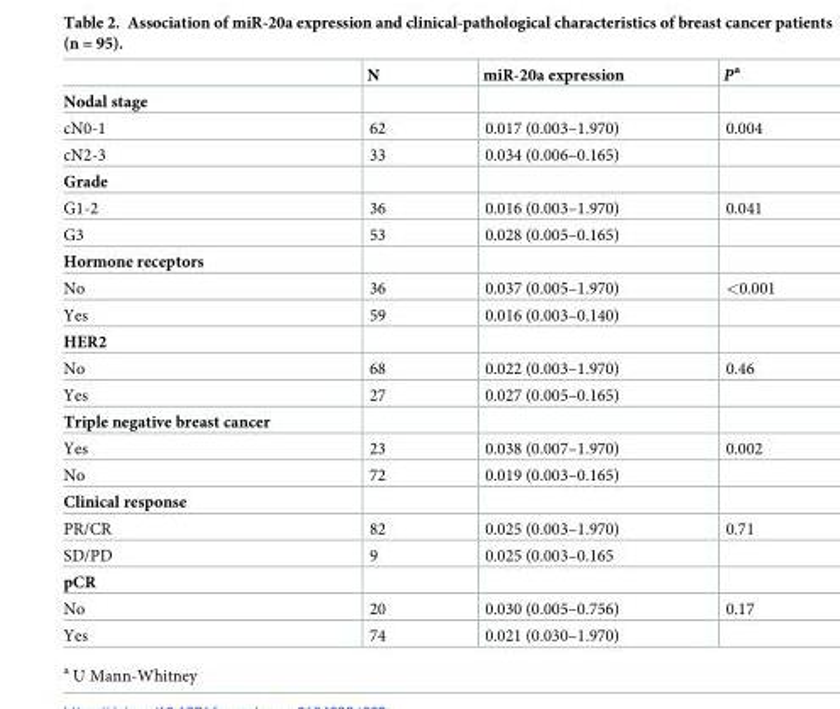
<table><thead><tr><td></td><td>N</td><td>miR-20a expression</td><td>P<sup>a</sup></td></tr></thead><tbody><tr><td colspan="4">Nodal stage</td></tr><tr><td>cN0-1</td><td>62</td><td>0.017 (0.003–1.970)</td><td>0.004</td></tr><tr><td>cN2-3</td><td>33</td><td>0.034 (0.006–0.165)</td><td></td></tr><tr><td colspan="4">Grade</td></tr><tr><td>G1-2</td><td>36</td><td>0.016 (0.003–1.970)</td><td>0.041</td></tr><tr><td>G3</td><td>53</td><td>0.028 (0.005–0.165)</td><td></td></tr><tr><td colspan="4">Hormone receptors</td></tr><tr><td>No</td><td>36</td><td>0.037 (0.005–1.970)</td><td>&lt;0.001</td></tr><tr><td>Yes</td><td>59</td><td>0.016 (0.003–0.140)</td><td></td></tr><tr><td colspan="4">HER2</td></tr><tr><td>No</td><td>68</td><td>0.022 (0.003–1.970)</td><td>0.46</td></tr><tr><td>Yes</td><td>27</td><td>0.027 (0.005–0.165)</td><td></td></tr><tr><td colspan="4">Triple negative breast cancer</td></tr><tr><td>Yes</td><td>23</td><td>0.038 (0.007–1.970)</td><td>0.002</td></tr><tr><td>No</td><td>72</td><td>0.019 (0.003–0.165)</td><td></td></tr><tr><td colspan="4">Clinical response</td></tr><tr><td>PR/CR</td><td>82</td><td>0.025 (0.003–1.970)</td><td>0.71</td></tr><tr><td>SD/PD</td><td>9</td><td>0.025 (0.003–0.165</td><td></td></tr><tr><td colspan="4">pCR</td></tr><tr><td>No</td><td>20</td><td>0.030 (0.005–0.756)</td><td>0.17</td></tr><tr><td>Yes</td><td>74</td><td>0.021 (0.030–1.970)</td><td></td></tr></tbody></table>